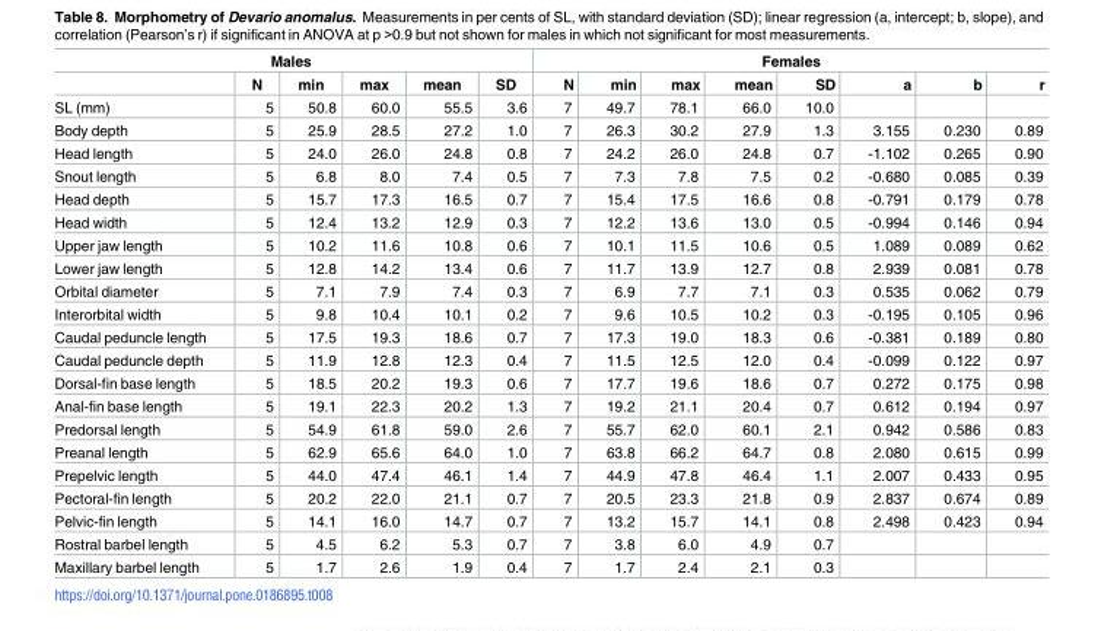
<table><thead><tr><td colspan="6">Males</td><td colspan="8">Females</td></tr><tr><td></td><td>N</td><td>min</td><td>max</td><td>mean</td><td>SD</td><td>N</td><td>min</td><td>max</td><td>mean</td><td>SD</td><td>a</td><td>b</td><td>r</td></tr></thead><tbody><tr><td>SL (mm)</td><td>5</td><td>50.8</td><td>60.0</td><td>55.5</td><td>3.6</td><td>7</td><td>49.7</td><td>78.1</td><td>66.0</td><td>10.0</td><td></td><td></td><td></td></tr><tr><td>Body depth</td><td>5</td><td>25.9</td><td>28.5</td><td>27.2</td><td>1.0</td><td>7</td><td>26.3</td><td>30.2</td><td>27.9</td><td>1.3</td><td>3.155</td><td>0.230</td><td>0.89</td></tr><tr><td>Head length</td><td>5</td><td>24.0</td><td>26.0</td><td>24.8</td><td>0.8</td><td>7</td><td>24.2</td><td>26.0</td><td>24.8</td><td>0.7</td><td>-1.102</td><td>0.265</td><td>0.90</td></tr><tr><td>Snout length</td><td>5</td><td>6.8</td><td>8.0</td><td>7.4</td><td>0.5</td><td>7</td><td>7.3</td><td>7.8</td><td>7.5</td><td>0.2</td><td>-0.680</td><td>0.085</td><td>0.39</td></tr><tr><td>Head depth</td><td>5</td><td>15.7</td><td>17.3</td><td>16.5</td><td>0.7</td><td>7</td><td>15.4</td><td>17.5</td><td>16.6</td><td>0.8</td><td>-0.791</td><td>0.179</td><td>0.78</td></tr><tr><td>Head width</td><td>5</td><td>12.4</td><td>13.2</td><td>12.9</td><td>0.3</td><td>7</td><td>12.2</td><td>13.6</td><td>13.0</td><td>0.5</td><td>-0.994</td><td>0.146</td><td>0.94</td></tr><tr><td>Upper jaw length</td><td>5</td><td>10.2</td><td>11.6</td><td>10.8</td><td>0.6</td><td>7</td><td>10.1</td><td>11.5</td><td>10.6</td><td>0.5</td><td>1.089</td><td>0.089</td><td>0.62</td></tr><tr><td>Lower jaw length</td><td>5</td><td>12.8</td><td>14.2</td><td>13.4</td><td>0.6</td><td>7</td><td>11.7</td><td>13.9</td><td>12.7</td><td>0.8</td><td>2.939</td><td>0.081</td><td>0.78</td></tr><tr><td>Orbital diameter</td><td>5</td><td>7.1</td><td>7.9</td><td>7.4</td><td>0.3</td><td>7</td><td>6.9</td><td>7.7</td><td>7.1</td><td>0.3</td><td>0.535</td><td>0.062</td><td>0.79</td></tr><tr><td>Interorbital width</td><td>5</td><td>9.8</td><td>10.4</td><td>10.1</td><td>0.2</td><td>7</td><td>9.6</td><td>10.5</td><td>10.2</td><td>0.3</td><td>-0.195</td><td>0.105</td><td>0.96</td></tr><tr><td>Caudal peduncle length</td><td>5</td><td>17.5</td><td>19.3</td><td>18.6</td><td>0.7</td><td>7</td><td>17.3</td><td>19.0</td><td>18.3</td><td>0.6</td><td>-0.381</td><td>0.189</td><td>0.80</td></tr><tr><td>Caudal peduncle depth</td><td>5</td><td>11.9</td><td>12.8</td><td>12.3</td><td>0.4</td><td>7</td><td>11.5</td><td>12.5</td><td>12.0</td><td>0.4</td><td>-0.099</td><td>0.122</td><td>0.97</td></tr><tr><td>Dorsal-fin base length</td><td>5</td><td>18.5</td><td>20.2</td><td>19.3</td><td>0.6</td><td>7</td><td>17.7</td><td>19.6</td><td>18.6</td><td>0.7</td><td>0.272</td><td>0.175</td><td>0.98</td></tr><tr><td>Anal-fin base length</td><td>5</td><td>19.1</td><td>22.3</td><td>20.2</td><td>1.3</td><td>7</td><td>19.2</td><td>21.1</td><td>20.4</td><td>0.7</td><td>0.612</td><td>0.194</td><td>0.97</td></tr><tr><td>Predorsal length</td><td>5</td><td>54.9</td><td>61.8</td><td>59.0</td><td>2.6</td><td>7</td><td>55.7</td><td>62.0</td><td>60.1</td><td>2.1</td><td>0.942</td><td>0.586</td><td>0.83</td></tr><tr><td>Preanal length</td><td>5</td><td>62.9</td><td>65.6</td><td>64.0</td><td>1.0</td><td>7</td><td>63.8</td><td>66.2</td><td>64.7</td><td>0.8</td><td>2.080</td><td>0.615</td><td>0.99</td></tr><tr><td>Prepelvic length</td><td>5</td><td>44.0</td><td>47.4</td><td>46.1</td><td>1.4</td><td>7</td><td>44.9</td><td>47.8</td><td>46.4</td><td>1.1</td><td>2.007</td><td>0.433</td><td>0.95</td></tr><tr><td>Pectoral-fin length</td><td>5</td><td>20.2</td><td>22.0</td><td>21.1</td><td>0.7</td><td>7</td><td>20.5</td><td>23.3</td><td>21.8</td><td>0.9</td><td>2.837</td><td>0.674</td><td>0.89</td></tr><tr><td>Pelvic-fin length</td><td>5</td><td>14.1</td><td>16.0</td><td>14.7</td><td>0.7</td><td>7</td><td>13.2</td><td>15.7</td><td>14.1</td><td>0.8</td><td>2.498</td><td>0.423</td><td>0.94</td></tr><tr><td>Rostral barbel length</td><td>5</td><td>4.5</td><td>6.2</td><td>5.3</td><td>0.7</td><td>7</td><td>3.8</td><td>6.0</td><td>4.9</td><td>0.7</td><td></td><td></td><td></td></tr><tr><td>Maxillary barbel length</td><td>5</td><td>1.7</td><td>2.6</td><td>1.9</td><td>0.4</td><td>7</td><td>1.7</td><td>2.4</td><td>2.1</td><td>0.3</td><td></td><td></td><td></td></tr></tbody></table>